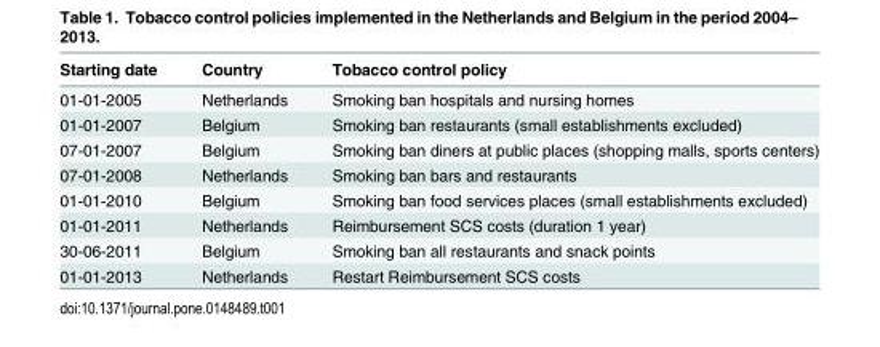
<table><thead><tr><td>Starting date</td><td>Country</td><td>Tobacco control policy</td></tr></thead><tbody><tr><td>01-01-2005</td><td>Netherlands</td><td>Smoking ban hospitals and nursing homes</td></tr><tr><td>01-01-2007</td><td>Belgium</td><td>Smoking ban restaurants (small establishments excluded)</td></tr><tr><td>07-01-2007</td><td>Belgium</td><td>Smoking ban diners at public places (shopping malls, sports centers)</td></tr><tr><td>07-01-2008</td><td>Netherlands</td><td>Smoking ban bars and restaurants</td></tr><tr><td>01-01-2010</td><td>Belgium</td><td>Smoking ban food services places (small establishments excluded)</td></tr><tr><td>01-01-2011</td><td>Netherlands</td><td>Reimbursement SCS costs (duration 1 year)</td></tr><tr><td>30-06-2011</td><td>Belgium</td><td>Smoking ban all restaurants and snack points</td></tr><tr><td>01-01-2013</td><td>Netherlands</td><td>Restart Reimbursement SCS costs</td></tr></tbody></table>